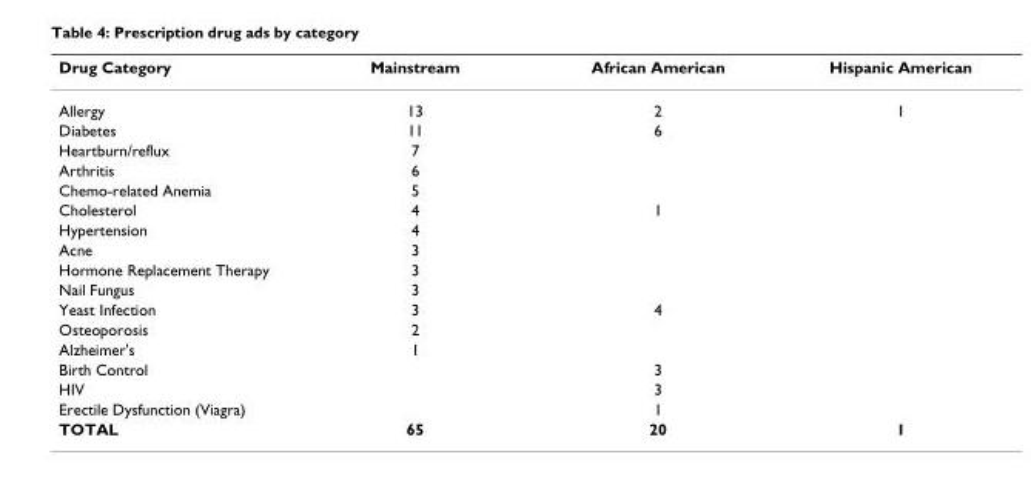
<table><thead><tr><td>Drug Category</td><td>Mainstream</td><td>African American</td><td>Hispanic American</td></tr></thead><tbody><tr><td>Allergy</td><td>13</td><td>2</td><td>1</td></tr><tr><td>Diabetes</td><td>11</td><td>6</td><td></td></tr><tr><td>Heartburn/reflux</td><td>7</td><td></td><td></td></tr><tr><td>Arthritis</td><td>6</td><td></td><td></td></tr><tr><td>Chemo-related Anemia</td><td>5</td><td></td><td></td></tr><tr><td>Cholesterol</td><td>4</td><td>1</td><td></td></tr><tr><td>Hypertension</td><td>4</td><td></td><td></td></tr><tr><td>Acne</td><td>3</td><td></td><td></td></tr><tr><td>Hormone Replacement Therapy</td><td>3</td><td></td><td></td></tr><tr><td>Nail Fungus</td><td>3</td><td></td><td></td></tr><tr><td>Yeast Infection</td><td>3</td><td>4</td><td></td></tr><tr><td>Osteoporosis</td><td>2</td><td></td><td></td></tr><tr><td>Alzheimer&#x27;s</td><td>1</td><td></td><td></td></tr><tr><td>Birth Control</td><td></td><td>3</td><td></td></tr><tr><td>HIV</td><td></td><td>3</td><td></td></tr><tr><td>Erectile Dysfunction (Viagra)</td><td></td><td>1</td><td></td></tr><tr><td>TOTAL</td><td>65</td><td>20</td><td>1</td></tr></tbody></table>